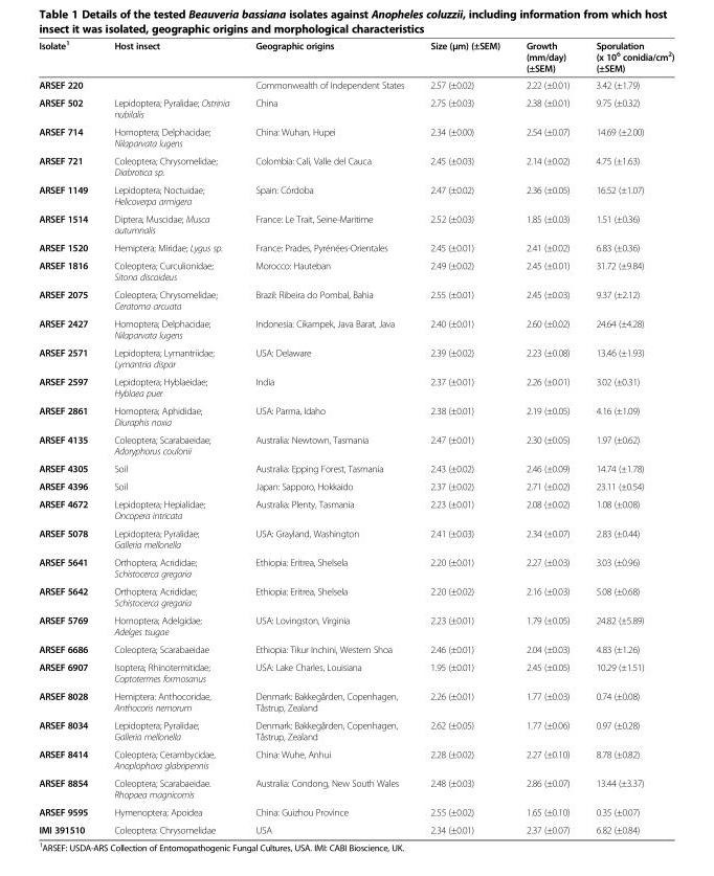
<table><thead><tr><td>Isolate<sup>1</sup></td><td>Host insect</td><td>Geographic origins</td><td>Size (μm) (±SEM)</td><td>Growth (mm/day) (±SEM)</td><td>Sporulation (x 10<sup>6</sup> conidia/cm<sup>2</sup>) (±SEM)</td></tr></thead><tbody><tr><td>ARSEF 220</td><td></td><td>Commonwealth of Independent States</td><td>2.57 (±0.02)</td><td>2.22 (±0.01)</td><td>3.42 (±1.79)</td></tr><tr><td>ARSEF 502</td><td>Lepidoptera; Pyralidae; Ostrinia nubilalis</td><td>China</td><td>2.75 (±0.03)</td><td>2.38 (±0.01)</td><td>9.75 (±0.32)</td></tr><tr><td>ARSEF 714</td><td>Homoptera; Delphacidae; Nilaparvata lugens</td><td>China: Wuhan, Hupei</td><td>2.34 (±0.00)</td><td>2.54 (±0.07)</td><td>14.69 (±2.00)</td></tr><tr><td>ARSEF 721</td><td>Coleoptera; Chrysomelidae; Diabrotica sp.</td><td>Colombia: Cali, Valle del Cauca</td><td>2.45 (±0.03)</td><td>2.14 (±0.02)</td><td>4.75 (±1.63)</td></tr><tr><td>ARSEF 1149</td><td>Lepidoptera; Noctuidae; Helicoverpa armigera</td><td>Spain: Córdoba</td><td>2.47 (±0.02)</td><td>2.36 (±0.05)</td><td>16.52 (±1.07)</td></tr><tr><td>ARSEF 1514</td><td>Diptera; Muscidae; Musca autumnalis</td><td>France: Le Trait, Seine-Maritime</td><td>2.52 (±0.03)</td><td>1.85 (±0.03)</td><td>1.51 (±0.36)</td></tr><tr><td>ARSEF 1520</td><td>Hemiptera; Miridae; Lygus sp.</td><td>France: Prades, Pyrénées-Orientales</td><td>2.45 (±0.01)</td><td>2.41 (±0.02)</td><td>6.83 (±0.36)</td></tr><tr><td>ARSEF 1816</td><td>Coleoptera; Curculionidae; Sitona discoideus</td><td>Morocco: Hauteban</td><td>2.49 (±0.02)</td><td>2.45 (±0.01)</td><td>31.72 (±9.84)</td></tr><tr><td>ARSEF 2075</td><td>Coleoptera; Chrysomelidae; Ceratoma arcuata</td><td>Brazil: Ribeira do Pombal, Bahia</td><td>2.55 (±0.01)</td><td>2.45 (±0.03)</td><td>9.37 (±2.12)</td></tr><tr><td>ARSEF 2427</td><td>Homoptera; Delphacidae; Nilaparvata lugens</td><td>Indonesia: Cikampek, Java Barat, Java</td><td>2.40 (±0.01)</td><td>2.60 (±0.02)</td><td>24.64 (±4.28)</td></tr><tr><td>ARSEF 2571</td><td>Lepidoptera; Lymantriidae; Lymantria dispar</td><td>USA: Delaware</td><td>2.39 (±0.02)</td><td>2.23 (±0.08)</td><td>13.46 (±1.93)</td></tr><tr><td>ARSEF 2597</td><td>Lepidoptera; Hyblaeidae; Hyblaea puer</td><td>India</td><td>2.37 (±0.01)</td><td>2.26 (±0.01)</td><td>3.02 (±0.31)</td></tr><tr><td>ARSEF 2861</td><td>Homoptera; Aphididae; Diuraphis noxia</td><td>USA: Parma, Idaho</td><td>2.38 (±0.01)</td><td>2.19 (±0.05)</td><td>4.16 (±1.09)</td></tr><tr><td>ARSEF 4135</td><td>Coleoptera; Scarabaeidae; Adoryphorus coulonii</td><td>Australia: Newtown, Tasmania</td><td>2.47 (±0.01)</td><td>2.30 (±0.05)</td><td>1.97 (±0.62)</td></tr><tr><td>ARSEF 4305</td><td>Soil</td><td>Australia: Epping Forest, Tasmania</td><td>2.43 (±0.02)</td><td>2.46 (±0.09)</td><td>14.74 (±1.78)</td></tr><tr><td>ARSEF 4396</td><td>Soil</td><td>Japan: Sapporo, Hokkaido</td><td>2.37 (±0.02)</td><td>2.71 (±0.02)</td><td>23.11 (±0.54)</td></tr><tr><td>ARSEF 4672</td><td>Lepidoptera; Hepialidae; Oncopera intricata</td><td>Australia: Plenty, Tasmania</td><td>2.23 (±0.01)</td><td>2.08 (±0.02)</td><td>1.08 (±0.08)</td></tr><tr><td>ARSEF 5078</td><td>Lepidoptera; Pyralidae; Galleria mellonella</td><td>USA: Grayland, Washington</td><td>2.41 (±0.03)</td><td>2.34 (±0.07)</td><td>2.83 (±0.44)</td></tr><tr><td>ARSEF 5641</td><td>Orthoptera; Acrididae; Schistocerca gregaria</td><td>Ethiopia: Eritrea, Shelsela</td><td>2.20 (±0.01)</td><td>2.27 (±0.03)</td><td>3.03 (±0.96)</td></tr><tr><td>ARSEF 5642</td><td>Orthoptera; Acrididae; Schistocerca gregaria</td><td>Ethiopia: Eritrea, Shelsela</td><td>2.20 (±0.02)</td><td>2.16 (±0.03)</td><td>5.08 (±0.68)</td></tr><tr><td>ARSEF 5769</td><td>Homoptera; Adelgidae; Adelges tsugae</td><td>USA: Lovingston, Virginia</td><td>2.23 (±0.01)</td><td>1.79 (±0.05)</td><td>24.82 (±5.89)</td></tr><tr><td>ARSEF 6686</td><td>Coleoptera; Scarabaeidae</td><td>Ethiopia: Tikur Inchini, Western Shoa</td><td>2.46 (±0.01)</td><td>2.04 (±0.03)</td><td>4.83 (±1.26)</td></tr><tr><td>ARSEF 6907</td><td>Isoptera; Rhinotermitidae; Coptotermes formosanus</td><td>USA: Lake Charles, Louisiana</td><td>1.95 (±0.01)</td><td>2.45 (±0.05)</td><td>10.29 (±1.51)</td></tr><tr><td>ARSEF 8028</td><td>Hemiptera: Anthocoridae, Anthocoris nemorum</td><td>Denmark: Bakkegården, Copenhagen, Tåstrup, Zealand</td><td>2.26 (±0.01)</td><td>1.77 (±0.03)</td><td>0.74 (±0.08)</td></tr><tr><td>ARSEF 8034</td><td>Lepidoptera; Pyralidae; Galleria mellonella</td><td>Denmark: Bakkegården, Copenhagen, Tåstrup, Zealand</td><td>2.62 (±0.05)</td><td>1.77 (±0.06)</td><td>0.97 (±0.28)</td></tr><tr><td>ARSEF 8414</td><td>Coleoptera; Cerambycidae, Anoplophora glabripennis</td><td>China: Wuhe, Anhui</td><td>2.28 (±0.02)</td><td>2.27 (±0.10)</td><td>8.78 (±0.82)</td></tr><tr><td>ARSEF 8854</td><td>Coleoptera; Scarabaeidae. Rhopaea magnicornis</td><td>Australia: Condong, New South Wales</td><td>2.48 (±0.03)</td><td>2.86 (±0.07)</td><td>13.44 (±3.37)</td></tr><tr><td>ARSEF 9595</td><td>Hymenoptera; Apoidea</td><td>China: Guizhou Province</td><td>2.55 (±0.02)</td><td>1.65 (±0.10)</td><td>0.35 (±0.07)</td></tr><tr><td>IMI 391510</td><td>Coleoptera: Chrysomelidae</td><td>USA</td><td>2.34 (±0.01)</td><td>2.37 (±0.07)</td><td>6.82 (±0.84)</td></tr></tbody></table>